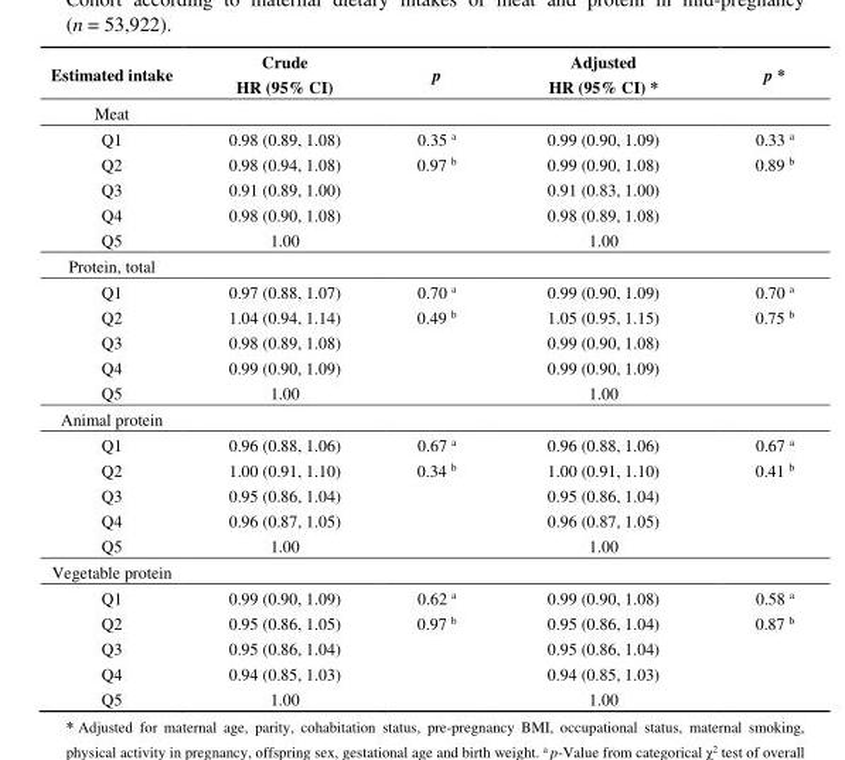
<table><thead><tr><td>Estimated intake</td><td>Crude HR (95% CI)</td><td>p</td><td>Adjusted HR (95% CI) *</td><td>p *</td></tr></thead><tbody><tr><td colspan="5">Meat</td></tr><tr><td>Q1</td><td>0.98 (0.89, 1.08)</td><td>0.35 <sup>a</sup></td><td>0.99 (0.90, 1.09)</td><td>0.33 <sup>a</sup></td></tr><tr><td>Q2</td><td>0.98 (0.94, 1.08)</td><td>0.97 <sup>b</sup></td><td>0.99 (0.90, 1.08)</td><td>0.89 <sup>b</sup></td></tr><tr><td>Q3</td><td>0.91 (0.89, 1.00)</td><td></td><td>0.91 (0.83, 1.00)</td><td></td></tr><tr><td>Q4</td><td>0.98 (0.90, 1.08)</td><td></td><td>0.98 (0.89, 1.08)</td><td></td></tr><tr><td>Q5</td><td>1.00</td><td></td><td>1.00</td><td></td></tr><tr><td colspan="5">Protein, total</td></tr><tr><td>Q1</td><td>0.97 (0.88, 1.07)</td><td>0.70 <sup>a</sup></td><td>0.99 (0.90, 1.09)</td><td>0.70 <sup>a</sup></td></tr><tr><td>Q2</td><td>1.04 (0.94, 1.14)</td><td>0.49 <sup>b</sup></td><td>1.05 (0.95, 1.15)</td><td>0.75 <sup>b</sup></td></tr><tr><td>Q3</td><td>0.98 (0.89, 1.08)</td><td></td><td>0.99 (0.90, 1.08)</td><td></td></tr><tr><td>Q4</td><td>0.99 (0.90, 1.09)</td><td></td><td>0.99 (0.90, 1.09)</td><td></td></tr><tr><td>Q5</td><td>1.00</td><td></td><td>1.00</td><td></td></tr><tr><td colspan="5">Animal protein</td></tr><tr><td>Q1</td><td>0.96 (0.88, 1.06)</td><td>0.67 <sup>a</sup></td><td>0.96 (0.88, 1.06)</td><td>0.67 <sup>a</sup></td></tr><tr><td>Q2</td><td>1.00 (0.91, 1.10)</td><td>0.34 <sup>b</sup></td><td>1.00 (0.91, 1.10)</td><td>0.41 <sup>b</sup></td></tr><tr><td>Q3</td><td>0.95 (0.86, 1.04)</td><td></td><td>0.95 (0.86, 1.04)</td><td></td></tr><tr><td>Q4</td><td>0.96 (0.87, 1.05)</td><td></td><td>0.96 (0.87, 1.05)</td><td></td></tr><tr><td>Q5</td><td>1.00</td><td></td><td>1.00</td><td></td></tr><tr><td colspan="5">Vegetable protein</td></tr><tr><td>Q1</td><td>0.99 (0.90, 1.09)</td><td>0.62 <sup>a</sup></td><td>0.99 (0.90, 1.08)</td><td>0.58 <sup>a</sup></td></tr><tr><td>Q2</td><td>0.95 (0.86, 1.05)</td><td>0.97 <sup>b</sup></td><td>0.95 (0.86, 1.04)</td><td>0.87 <sup>b</sup></td></tr><tr><td>Q3</td><td>0.95 (0.86, 1.04)</td><td></td><td>0.95 (0.86, 1.04)</td><td></td></tr><tr><td>Q4</td><td>0.94 (0.85, 1.03)</td><td></td><td>0.94 (0.85, 1.03)</td><td></td></tr><tr><td>Q5</td><td>1.00</td><td></td><td>1.00</td><td></td></tr></tbody></table>